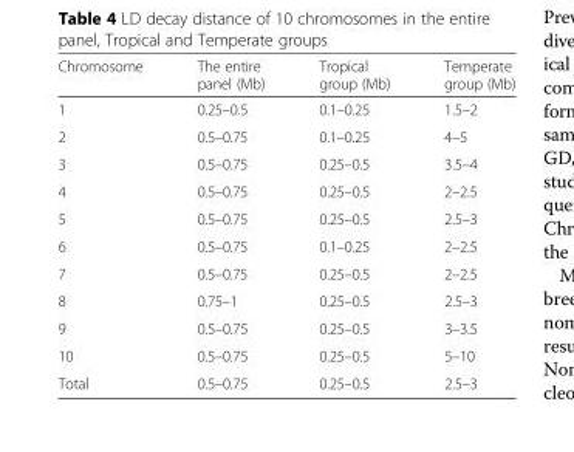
<table><thead><tr><td>Chromosome</td><td>The entire panel (Mb)</td><td>Tropical group (Mb)</td><td>Temperate group (Mb)</td></tr></thead><tbody><tr><td>1</td><td>0.25–0.5</td><td>0.1–0.25</td><td>1.5–2</td></tr><tr><td>2</td><td>0.5–0.75</td><td>0.1–0.25</td><td>4–5</td></tr><tr><td>3</td><td>0.5–0.75</td><td>0.25–0.5</td><td>3.5–4</td></tr><tr><td>4</td><td>0.5–0.75</td><td>0.25–0.5</td><td>2–2.5</td></tr><tr><td>5</td><td>0.5–0.75</td><td>0.25–0.5</td><td>2.5–3</td></tr><tr><td>6</td><td>0.5–0.75</td><td>0.1–0.25</td><td>2–2.5</td></tr><tr><td>7</td><td>0.5–0.75</td><td>0.25–0.5</td><td>2–2.5</td></tr><tr><td>8</td><td>0.75–1</td><td>0.25–0.5</td><td>2.5–3</td></tr><tr><td>9</td><td>0.5–0.75</td><td>0.25–0.5</td><td>3–3.5</td></tr><tr><td>10</td><td>0.5–0.75</td><td>0.25–0.5</td><td>5–10</td></tr><tr><td>Total</td><td>0.5–0.75</td><td>0.25–0.5</td><td>2.5–3</td></tr></tbody></table>